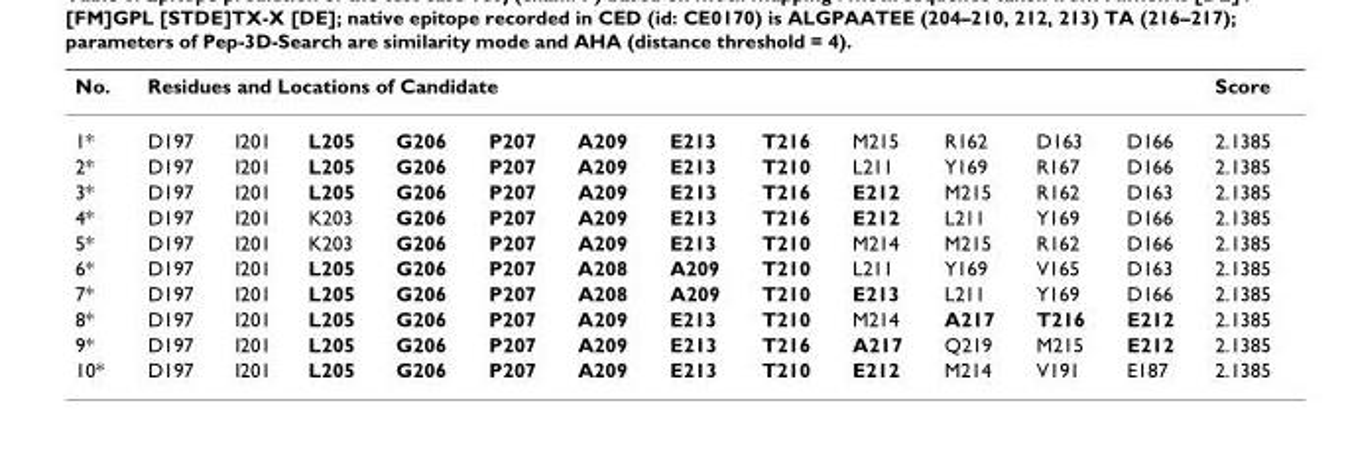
<table><thead><tr><td rowspan="2">No. 1*</td><td colspan="12">Residues and Locations of Candidate</td><td rowspan="2">Score 2.1385</td></tr><tr><td>D197</td><td>I201</td><td>L205</td><td>G206</td><td>P207</td><td>A209</td><td>E213</td><td>T216</td><td>M215</td><td>R162</td><td>D163</td><td>D166</td></tr></thead><tbody><tr><td>2*</td><td>D197</td><td>I201</td><td>L205</td><td>G206</td><td>P207</td><td>A209</td><td>E213</td><td>T210</td><td>L211</td><td>Y169</td><td>R167</td><td>D166</td><td>2.1385</td></tr><tr><td>3*</td><td>D197</td><td>I201</td><td>L205</td><td>G206</td><td>P207</td><td>A209</td><td>E213</td><td>T216</td><td>E212</td><td>M215</td><td>R162</td><td>D163</td><td>2.1385</td></tr><tr><td>4*</td><td>D197</td><td>I201</td><td>K203</td><td>G206</td><td>P207</td><td>A209</td><td>E213</td><td>T216</td><td>E212</td><td>L211</td><td>Y169</td><td>D166</td><td>2.1385</td></tr><tr><td>5*</td><td>D197</td><td>I201</td><td>K203</td><td>G206</td><td>P207</td><td>A209</td><td>E213</td><td>T210</td><td>M214</td><td>M215</td><td>R162</td><td>D166</td><td>2.1385</td></tr><tr><td>6*</td><td>D197</td><td>I201</td><td>L205</td><td>G206</td><td>P207</td><td>A208</td><td>A209</td><td>T210</td><td>L211</td><td>Y169</td><td>V165</td><td>D163</td><td>2.1385</td></tr><tr><td>7*</td><td>D197</td><td>I201</td><td>L205</td><td>G206</td><td>P207</td><td>A208</td><td>A209</td><td>T210</td><td>E213</td><td>L211</td><td>Y169</td><td>D166</td><td>2.1385</td></tr><tr><td>8*</td><td>D197</td><td>I201</td><td>L205</td><td>G206</td><td>P207</td><td>A209</td><td>E213</td><td>T210</td><td>M214</td><td>A217</td><td>T216</td><td>E212</td><td>2.1385</td></tr><tr><td>9*</td><td>D197</td><td>I201</td><td>L205</td><td>G206</td><td>P207</td><td>A209</td><td>E213</td><td>T216</td><td>A217</td><td>Q219</td><td>M215</td><td>E212</td><td>2.1385</td></tr><tr><td>10*</td><td>D197</td><td>I201</td><td>L205</td><td>G206</td><td>P207</td><td>A209</td><td>E213</td><td>T210</td><td>E212</td><td>M214</td><td>V191</td><td>E187</td><td>2.1385</td></tr></tbody></table>